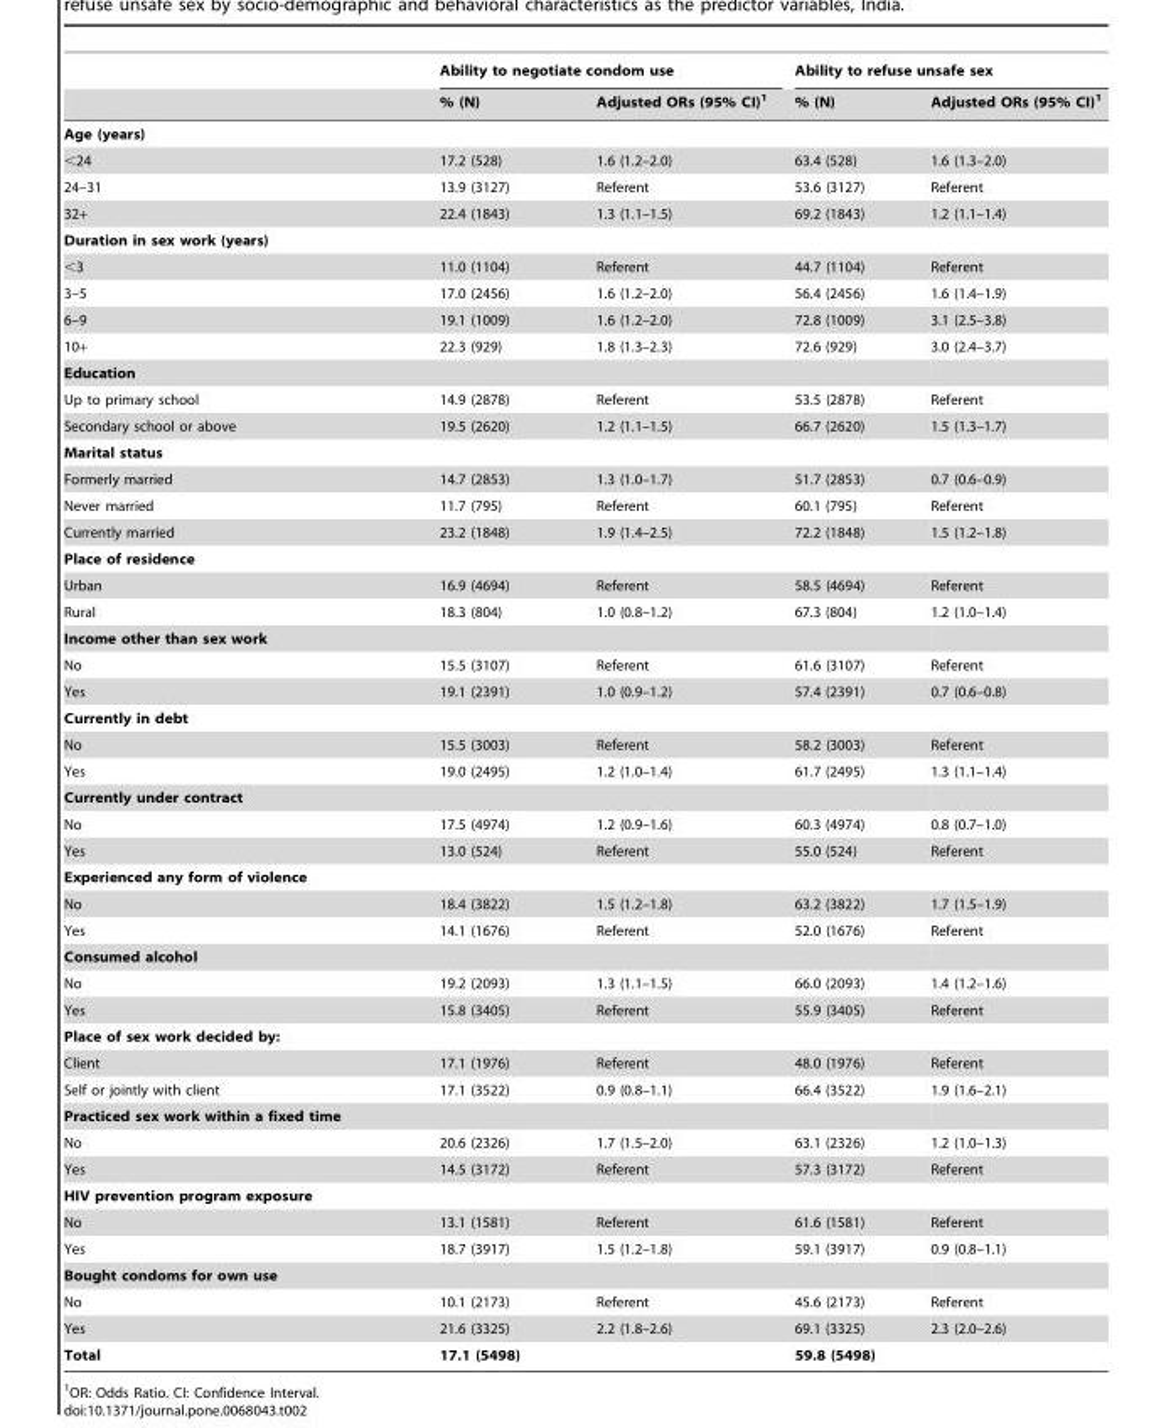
<table><thead><tr><td rowspan="2"></td><td colspan="2">Ability to negotiate condom use</td><td colspan="2">Ability to refuse unsafe sex</td></tr><tr><td>% (N)</td><td>Adjusted ORs (95% CI)<sup>1</sup></td><td>% (N)</td><td>Adjusted ORs (95% CI)<sup>1</sup></td></tr></thead><tbody><tr><td colspan="5">Age (years)</td></tr><tr><td>&lt;24</td><td>17.2 (528)</td><td>1.6 (1.2–2.0)</td><td>63.4 (528)</td><td>1.6 (1.3–2.0)</td></tr><tr><td>24–31</td><td>13.9 (3127)</td><td>Referent</td><td>53.6 (3127)</td><td>Referent</td></tr><tr><td>32+</td><td>22.4 (1843)</td><td>1.3 (1.1–1.5)</td><td>69.2 (1843)</td><td>1.2 (1.1–1.4)</td></tr><tr><td colspan="5">Duration in sex work (years)</td></tr><tr><td>&lt;3</td><td>11.0 (1104)</td><td>Referent</td><td>44.7 (1104)</td><td>Referent</td></tr><tr><td>3–5</td><td>17.0 (2456)</td><td>1.6 (1.2–2.0)</td><td>56.4 (2456)</td><td>1.6 (1.4–1.9)</td></tr><tr><td>6–9</td><td>19.1 (1009)</td><td>1.6 (1.2–2.0)</td><td>72.8 (1009)</td><td>3.1 (2.5–3.8)</td></tr><tr><td>10+</td><td>22.3 (929)</td><td>1.8 (1.3–2.3)</td><td>72.6 (929)</td><td>3.0 (2.4–3.7)</td></tr><tr><td colspan="5">Education</td></tr><tr><td>Up to primary school</td><td>14.9 (2878)</td><td>Referent</td><td>53.5 (2878)</td><td>Referent</td></tr><tr><td>Secondary school or above</td><td>19.5 (2620)</td><td>1.2 (1.1–1.5)</td><td>66.7 (2620)</td><td>1.5 (1.3–1.7)</td></tr><tr><td colspan="5">Marital status</td></tr><tr><td>Formerly married</td><td>14.7 (2853)</td><td>1.3 (1.0–1.7)</td><td>51.7 (2853)</td><td>0.7 (0.6–0.9)</td></tr><tr><td>Never married</td><td>11.7 (795)</td><td>Referent</td><td>60.1 (795)</td><td>Referent</td></tr><tr><td>Currently married</td><td>23.2 (1848)</td><td>1.9 (1.4–2.5)</td><td>72.2 (1848)</td><td>1.5 (1.2–1.8)</td></tr><tr><td colspan="5">Place of residence</td></tr><tr><td>Urban</td><td>16.9 (4694)</td><td>Referent</td><td>58.5 (4694)</td><td>Referent</td></tr><tr><td>Rural</td><td>18.3 (804)</td><td>1.0 (0.8–1.2)</td><td>67.3 (804)</td><td>1.2 (1.0–1.4)</td></tr><tr><td colspan="5">Income other than sex work</td></tr><tr><td>No</td><td>15.5 (3107)</td><td>Referent</td><td>61.6 (3107)</td><td>Referent</td></tr><tr><td>Yes</td><td>19.1 (2391)</td><td>1.0 (0.9–1.2)</td><td>57.4 (2391)</td><td>0.7 (0.6–0.8)</td></tr><tr><td colspan="5">Currently in debt</td></tr><tr><td>No</td><td>15.5 (3003)</td><td>Referent</td><td>58.2 (3003)</td><td>Referent</td></tr><tr><td>Yes</td><td>19.0 (2495)</td><td>1.2 (1.0–1.4)</td><td>61.7 (2495)</td><td>1.3 (1.1–1.4)</td></tr><tr><td colspan="5">Currently under contract</td></tr><tr><td>No</td><td>17.5 (4974)</td><td>1.2 (0.9–1.6)</td><td>60.3 (4974)</td><td>0.8 (0.7–1.0)</td></tr><tr><td>Yes</td><td>13.0 (524)</td><td>Referent</td><td>55.0 (524)</td><td>Referent</td></tr><tr><td colspan="5">Experienced any form of violence</td></tr><tr><td>No</td><td>18.4 (3822)</td><td>1.5 (1.2–1.8)</td><td>63.2 (3822)</td><td>1.7 (1.5–1.9)</td></tr><tr><td>Yes</td><td>14.1 (1676)</td><td>Referent</td><td>52.0 (1676)</td><td>Referent</td></tr><tr><td colspan="5">Consumed alcohol</td></tr><tr><td>No</td><td>19.2 (2093)</td><td>1.3 (1.1–1.5)</td><td>66.0 (2093)</td><td>1.4 (1.2–1.6)</td></tr><tr><td>Yes</td><td>15.8 (3405)</td><td>Referent</td><td>55.9 (3405)</td><td>Referent</td></tr><tr><td colspan="5">Place of sex work decided by:</td></tr><tr><td>Client</td><td>17.1 (1976)</td><td>Referent</td><td>48.0 (1976)</td><td>Referent</td></tr><tr><td>Self or jointly with client</td><td>17.1 (3522)</td><td>0.9 (0.8–1.1)</td><td>66.4 (3522)</td><td>1.9 (1.6–2.1)</td></tr><tr><td colspan="5">Practiced sex work within a fixed time</td></tr><tr><td>No</td><td>20.6 (2326)</td><td>1.7 (1.5–2.0)</td><td>63.1 (2326)</td><td>1.2 (1.0–1.3)</td></tr><tr><td>Yes</td><td>14.5 (3172)</td><td>Referent</td><td>57.3 (3172)</td><td>Referent</td></tr><tr><td colspan="5">HIV prevention program exposure</td></tr><tr><td>No</td><td>13.1 (1581)</td><td>Referent</td><td>61.6 (1581)</td><td>Referent</td></tr><tr><td>Yes</td><td>18.7 (3917)</td><td>1.5 (1.2–1.8)</td><td>59.1 (3917)</td><td>0.9 (0.8–1.1)</td></tr><tr><td colspan="5">Bought condoms for own use</td></tr><tr><td>No</td><td>10.1 (2173)</td><td>Referent</td><td>45.6 (2173)</td><td>Referent</td></tr><tr><td>Yes</td><td>21.6 (3325)</td><td>2.2 (1.8–2.6)</td><td>69.1 (3325)</td><td>2.3 (2.0–2.6)</td></tr><tr><td>Total</td><td>17.1 (5498)</td><td></td><td>59.8 (5498)</td><td></td></tr></tbody></table>